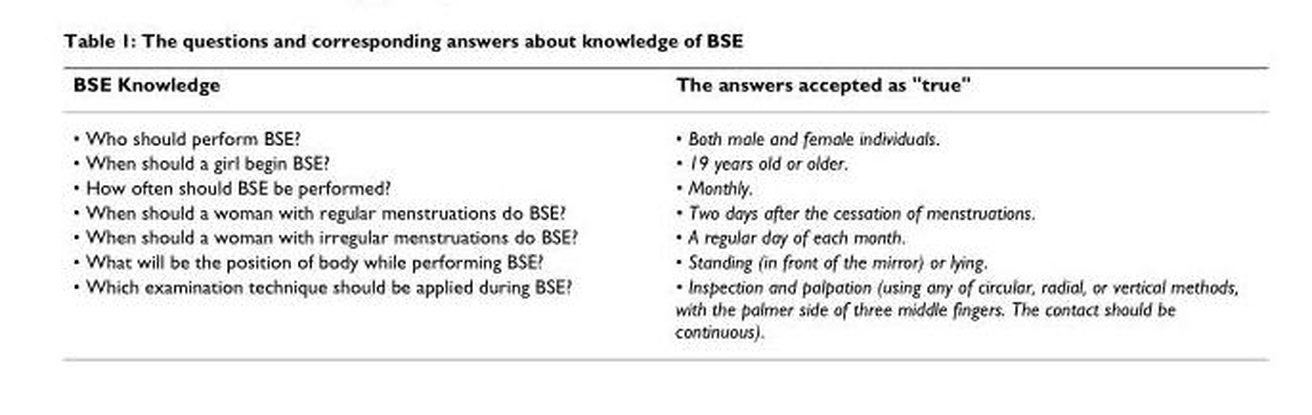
<table><thead><tr><td>BSE Knowledge</td><td>The answers accepted as &quot;true&quot;</td></tr></thead><tbody><tr><td>• Who should perform BSE?</td><td>• Both male and female individuals.</td></tr><tr><td>• When should a girl begin BSE?</td><td>• 19 years old or older.</td></tr><tr><td>• How often should BSE be performed?</td><td>• Monthly.</td></tr><tr><td>• When should a woman with regular menstruations do BSE?</td><td>• Two days after the cessation of menstruations.</td></tr><tr><td>• When should a woman with irregular menstruations do BSE?</td><td>• A regular day of each month.</td></tr><tr><td>• What will be the position of body while performing BSE?</td><td>• Standing (in front of the mirror) or lying.</td></tr><tr><td>• Which examination technique should be applied during BSE?</td><td>• Inspection and palpation (using any of circular, radial, or vertical methods, with the palmer side of three middle fingers. The contact should be continuous).</td></tr></tbody></table>